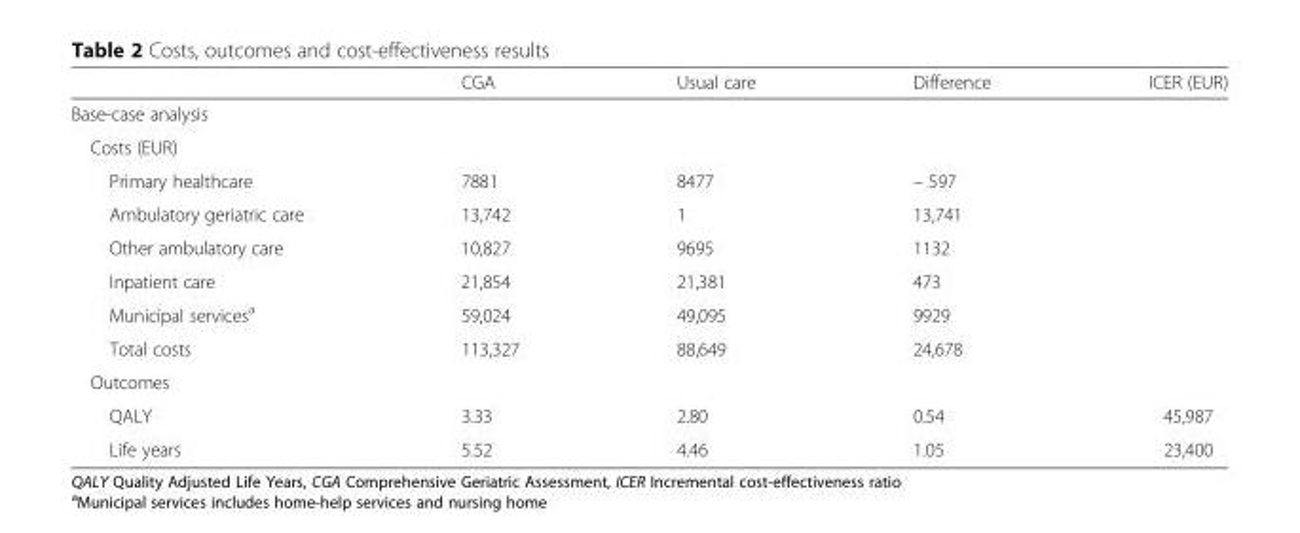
<table><thead><tr><td></td><td>CGA</td><td>Usual care</td><td>Difference</td><td>ICER (EUR)</td></tr></thead><tbody><tr><td colspan="5">Base-case analysis</td></tr><tr><td colspan="5">Costs (EUR)</td></tr><tr><td>Primary healthcare</td><td>7881</td><td>8477</td><td>– 597</td><td></td></tr><tr><td>Ambulatory geriatric care</td><td>13,742</td><td>1</td><td>13,741</td><td></td></tr><tr><td>Other ambulatory care</td><td>10,827</td><td>9695</td><td>1132</td><td></td></tr><tr><td>Inpatient care</td><td>21,854</td><td>21,381</td><td>473</td><td></td></tr><tr><td>Municipal services<sup>a</sup></td><td>59,024</td><td>49,095</td><td>9929</td><td></td></tr><tr><td>Total costs</td><td>113,327</td><td>88,649</td><td>24,678</td><td></td></tr><tr><td colspan="5">Outcomes</td></tr><tr><td>QALY</td><td>3.33</td><td>2.80</td><td>0.54</td><td>45,987</td></tr><tr><td>Life years</td><td>5.52</td><td>4.46</td><td>1.05</td><td>23,400</td></tr></tbody></table>